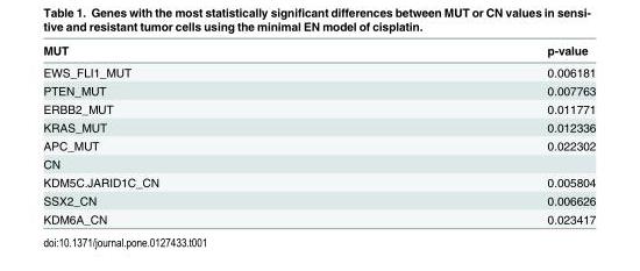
<table><thead><tr><td>MUT</td><td>p-value</td></tr></thead><tbody><tr><td>EWS_FLI1_MUT</td><td>0.006181</td></tr><tr><td>PTEN_MUT</td><td>0.007763</td></tr><tr><td>ERBB2_MUT</td><td>0.011771</td></tr><tr><td>KRAS_MUT</td><td>0.012336</td></tr><tr><td>APC_MUT</td><td>0.022302</td></tr><tr><td colspan="2">CN</td></tr><tr><td>KDM5C.JARID1C_CN</td><td>0.005804</td></tr><tr><td>SSX2_CN</td><td>0.006626</td></tr><tr><td>KDM6A_CN</td><td>0.023417</td></tr></tbody></table>